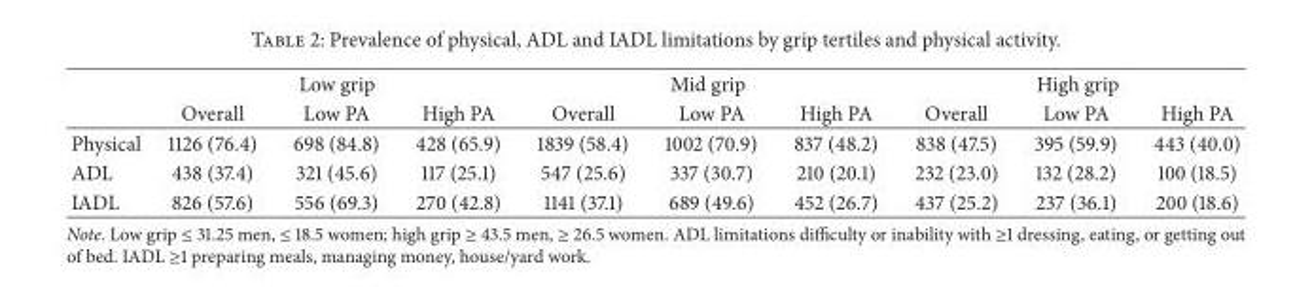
<table><thead><tr><td rowspan="2"></td><td colspan="3">Low grip</td><td colspan="3">Mid grip</td><td colspan="3">High grip</td></tr><tr><td>Overall</td><td>Low PA</td><td>High PA</td><td>Overall</td><td>Low PA</td><td>High PA</td><td>Overall</td><td>Low PA</td><td>High PA</td></tr></thead><tbody><tr><td>Physical</td><td>1126 (76.4)</td><td>698 (84.8)</td><td>428 (65.9)</td><td>1839 (58.4)</td><td>1002 (70.9)</td><td>837 (48.2)</td><td>838 (47.5)</td><td>395 (59.9)</td><td>443 (40.0)</td></tr><tr><td>ADL</td><td>438 (37.4)</td><td>321 (45.6)</td><td>117 (25.1)</td><td>547 (25.6)</td><td>337 (30.7)</td><td>210 (20.1)</td><td>232 (23.0)</td><td>132 (28.2)</td><td>100 (18.5)</td></tr><tr><td>IADL</td><td>826 (57.6)</td><td>556 (69.3)</td><td>270 (42.8)</td><td>1141 (37.1)</td><td>689 (49.6)</td><td>452 (26.7)</td><td>437 (25.2)</td><td>237 (36.1)</td><td>200 (18.6)</td></tr></tbody></table>